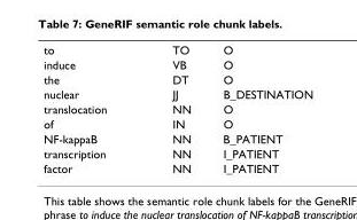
<table><tbody><tr><td>to</td><td>TO</td><td>O</td></tr><tr><td>induce</td><td>VB</td><td>O</td></tr><tr><td>the</td><td>DT</td><td>O</td></tr><tr><td>nuclear</td><td>JJ</td><td>B_DESTINATION</td></tr><tr><td>translocation</td><td>NN</td><td>O</td></tr><tr><td>of</td><td>IN</td><td>O</td></tr><tr><td>NF-kappaB</td><td>NN</td><td>B_PATIENT</td></tr><tr><td>transcription</td><td>NN</td><td>I_PATIENT</td></tr><tr><td>factor</td><td>NN</td><td>I_PATIENT</td></tr></tbody></table>